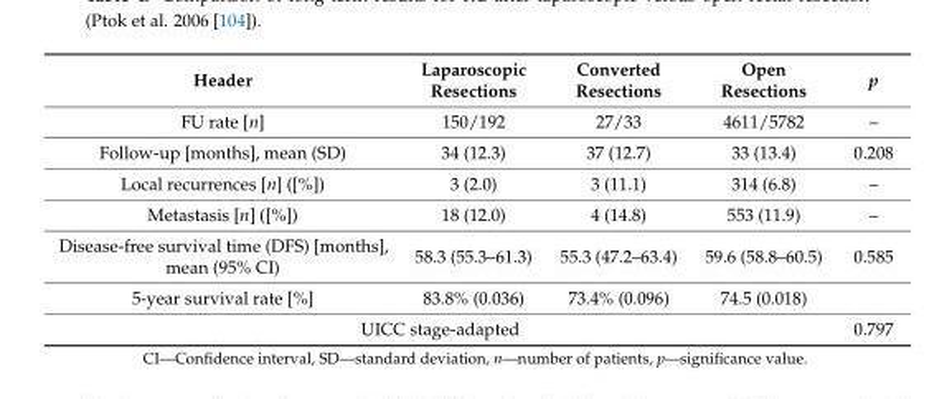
<table><thead><tr><td>Header</td><td>Laparoscopic Resections</td><td>Converted Resections</td><td>Open Resections</td><td>p</td></tr></thead><tbody><tr><td>FU rate [n]</td><td>150/192</td><td>27/33</td><td>4611/5782</td><td>–</td></tr><tr><td>Follow-up [months], mean (SD)</td><td>34 (12.3)</td><td>37 (12.7)</td><td>33 (13.4)</td><td>0.208</td></tr><tr><td>Local recurrences [n] ([%])</td><td>3 (2.0)</td><td>3 (11.1)</td><td>314 (6.8)</td><td>–</td></tr><tr><td>Metastasis [n] ([%])</td><td>18 (12.0)</td><td>4 (14.8)</td><td>553 (11.9)</td><td>–</td></tr><tr><td>Disease-free survival time (DFS) [months], mean (95% CI)</td><td>58.3 (55.3–61.3)</td><td>55.3 (47.2–63.4)</td><td>59.6 (58.8–60.5)</td><td>0.585</td></tr><tr><td>5-year survival rate [%]</td><td>83.8% (0.036)</td><td>73.4% (0.096)</td><td>74.5 (0.018)</td><td></td></tr><tr><td colspan="4">UICC stage-adapted</td><td>0.797</td></tr></tbody></table>